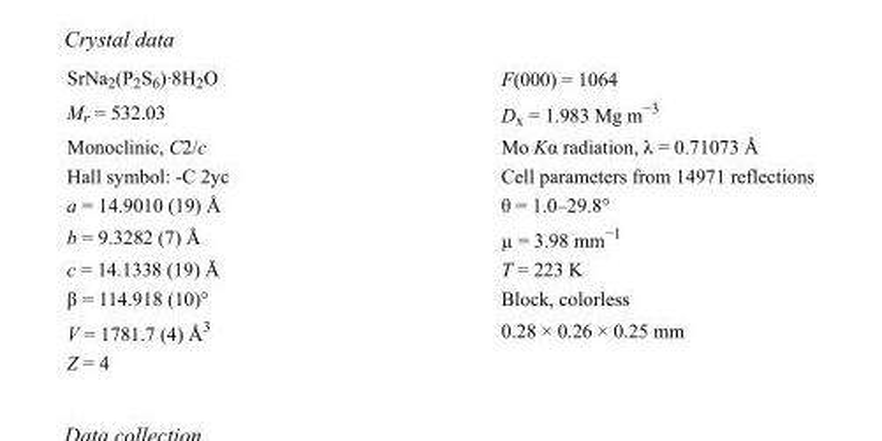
<table><tbody><tr><td>SrNa<sub>2</sub>(P<sub>2</sub>S<sub>6</sub>)·8H<sub>2</sub>O</td><td>F(000) = 1064</td></tr><tr><td>M<sub>r</sub> = 532.03</td><td>D<sub>x</sub> = 1.983 Mg m<sup>−3</sup></td></tr><tr><td>Monoclinic, C2/c</td><td>Mo Kα radiation, λ = 0.71073 Å</td></tr><tr><td>Hall symbol: -C 2yc</td><td>Cell parameters from 14971 reflections</td></tr><tr><td>a = 14.9010 (19) Å</td><td>θ = 1.0–29.8°</td></tr><tr><td>b = 9.3282 (7) Å</td><td>µ = 3.98 mm<sup>−1</sup></td></tr><tr><td>c = 14.1338 (19) Å</td><td>T = 223 K</td></tr><tr><td>β = 114.918 (10)°</td><td>Block, colorless</td></tr><tr><td>V = 1781.7 (4) Å<sup>3</sup></td><td>0.28 × 0.26 × 0.25 mm</td></tr><tr><td>Z = 4</td><td></td></tr></tbody></table>